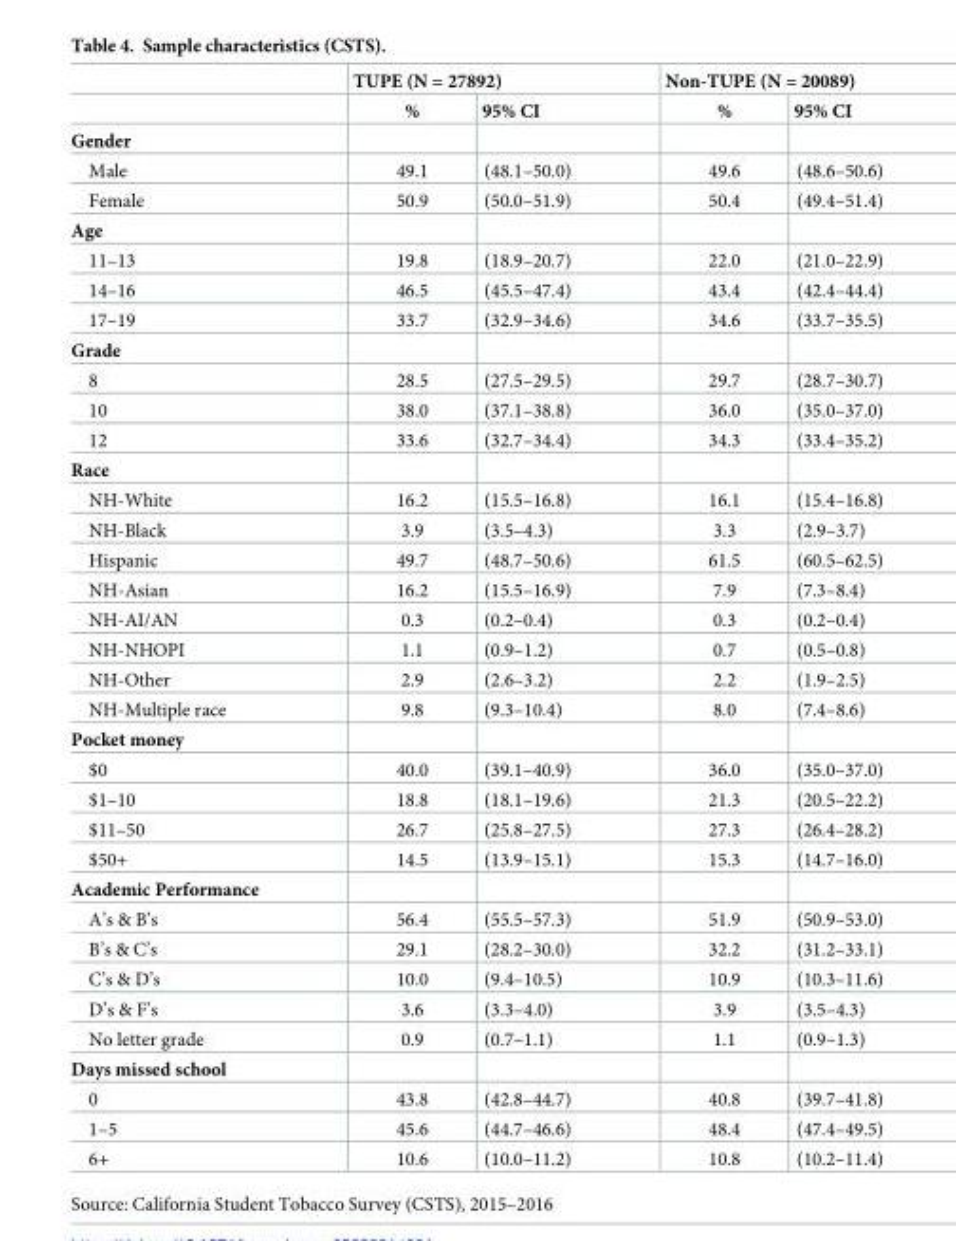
<table><thead><tr><td rowspan="2"></td><td colspan="2">TUPE (N = 27892)</td><td colspan="2">Non-TUPE (N = 20089)</td></tr><tr><td>%</td><td>95% CI</td><td>%</td><td>95% CI</td></tr></thead><tbody><tr><td colspan="5">Gender</td></tr><tr><td>Male</td><td>49.1</td><td>(48.1–50.0)</td><td>49.6</td><td>(48.6–50.6)</td></tr><tr><td>Female</td><td>50.9</td><td>(50.0–51.9)</td><td>50.4</td><td>(49.4–51.4)</td></tr><tr><td colspan="5">Age</td></tr><tr><td>11–13</td><td>19.8</td><td>(18.9–20.7)</td><td>22.0</td><td>(21.0–22.9)</td></tr><tr><td>14–16</td><td>46.5</td><td>(45.5–47.4)</td><td>43.4</td><td>(42.4–44.4)</td></tr><tr><td>17–19</td><td>33.7</td><td>(32.9–34.6)</td><td>34.6</td><td>(33.7–35.5)</td></tr><tr><td colspan="5">Grade</td></tr><tr><td>8</td><td>28.5</td><td>(27.5–29.5)</td><td>29.7</td><td>(28.7–30.7)</td></tr><tr><td>10</td><td>38.0</td><td>(37.1–38.8)</td><td>36.0</td><td>(35.0–37.0)</td></tr><tr><td>12</td><td>33.6</td><td>(32.7–34.4)</td><td>34.3</td><td>(33.4–35.2)</td></tr><tr><td colspan="5">Race</td></tr><tr><td>NH-White</td><td>16.2</td><td>(15.5–16.8)</td><td>16.1</td><td>(15.4–16.8)</td></tr><tr><td>NH-Black</td><td>3.9</td><td>(3.5–4.3)</td><td>3.3</td><td>(2.9–3.7)</td></tr><tr><td>Hispanic</td><td>49.7</td><td>(48.7–50.6)</td><td>61.5</td><td>(60.5–62.5)</td></tr><tr><td>NH-Asian</td><td>16.2</td><td>(15.5–16.9)</td><td>7.9</td><td>(7.3–8.4)</td></tr><tr><td>NH-AI/AN</td><td>0.3</td><td>(0.2–0.4)</td><td>0.3</td><td>(0.2–0.4)</td></tr><tr><td>NH-NHOPI</td><td>1.1</td><td>(0.9–1.2)</td><td>0.7</td><td>(0.5–0.8)</td></tr><tr><td>NH-Other</td><td>2.9</td><td>(2.6–3.2)</td><td>2.2</td><td>(1.9–2.5)</td></tr><tr><td>NH-Multiple race</td><td>9.8</td><td>(9.3–10.4)</td><td>8.0</td><td>(7.4–8.6)</td></tr><tr><td colspan="5">Pocket money</td></tr><tr><td>$0</td><td>40.0</td><td>(39.1–40.9)</td><td>36.0</td><td>(35.0–37.0)</td></tr><tr><td>$1–10</td><td>18.8</td><td>(18.1–19.6)</td><td>21.3</td><td>(20.5–22.2)</td></tr><tr><td>$11–50</td><td>26.7</td><td>(25.8–27.5)</td><td>27.3</td><td>(26.4–28.2)</td></tr><tr><td>$50+</td><td>14.5</td><td>(13.9–15.1)</td><td>15.3</td><td>(14.7–16.0)</td></tr><tr><td colspan="5">Academic Performance</td></tr><tr><td>A’s &amp; B’s</td><td>56.4</td><td>(55.5–57.3)</td><td>51.9</td><td>(50.9–53.0)</td></tr><tr><td>B’s &amp; C’s</td><td>29.1</td><td>(28.2–30.0)</td><td>32.2</td><td>(31.2–33.1)</td></tr><tr><td>C’s &amp; D’s</td><td>10.0</td><td>(9.4–10.5)</td><td>10.9</td><td>(10.3–11.6)</td></tr><tr><td>D’s &amp; F’s</td><td>3.6</td><td>(3.3–4.0)</td><td>3.9</td><td>(3.5–4.3)</td></tr><tr><td>No letter grade</td><td>0.9</td><td>(0.7–1.1)</td><td>1.1</td><td>(0.9–1.3)</td></tr><tr><td colspan="5">Days missed school</td></tr><tr><td>0</td><td>43.8</td><td>(42.8–44.7)</td><td>40.8</td><td>(39.7–41.8)</td></tr><tr><td>1–5</td><td>45.6</td><td>(44.7–46.6)</td><td>48.4</td><td>(47.4–49.5)</td></tr><tr><td>6+</td><td>10.6</td><td>(10.0–11.2)</td><td>10.8</td><td>(10.2–11.4)</td></tr></tbody></table>